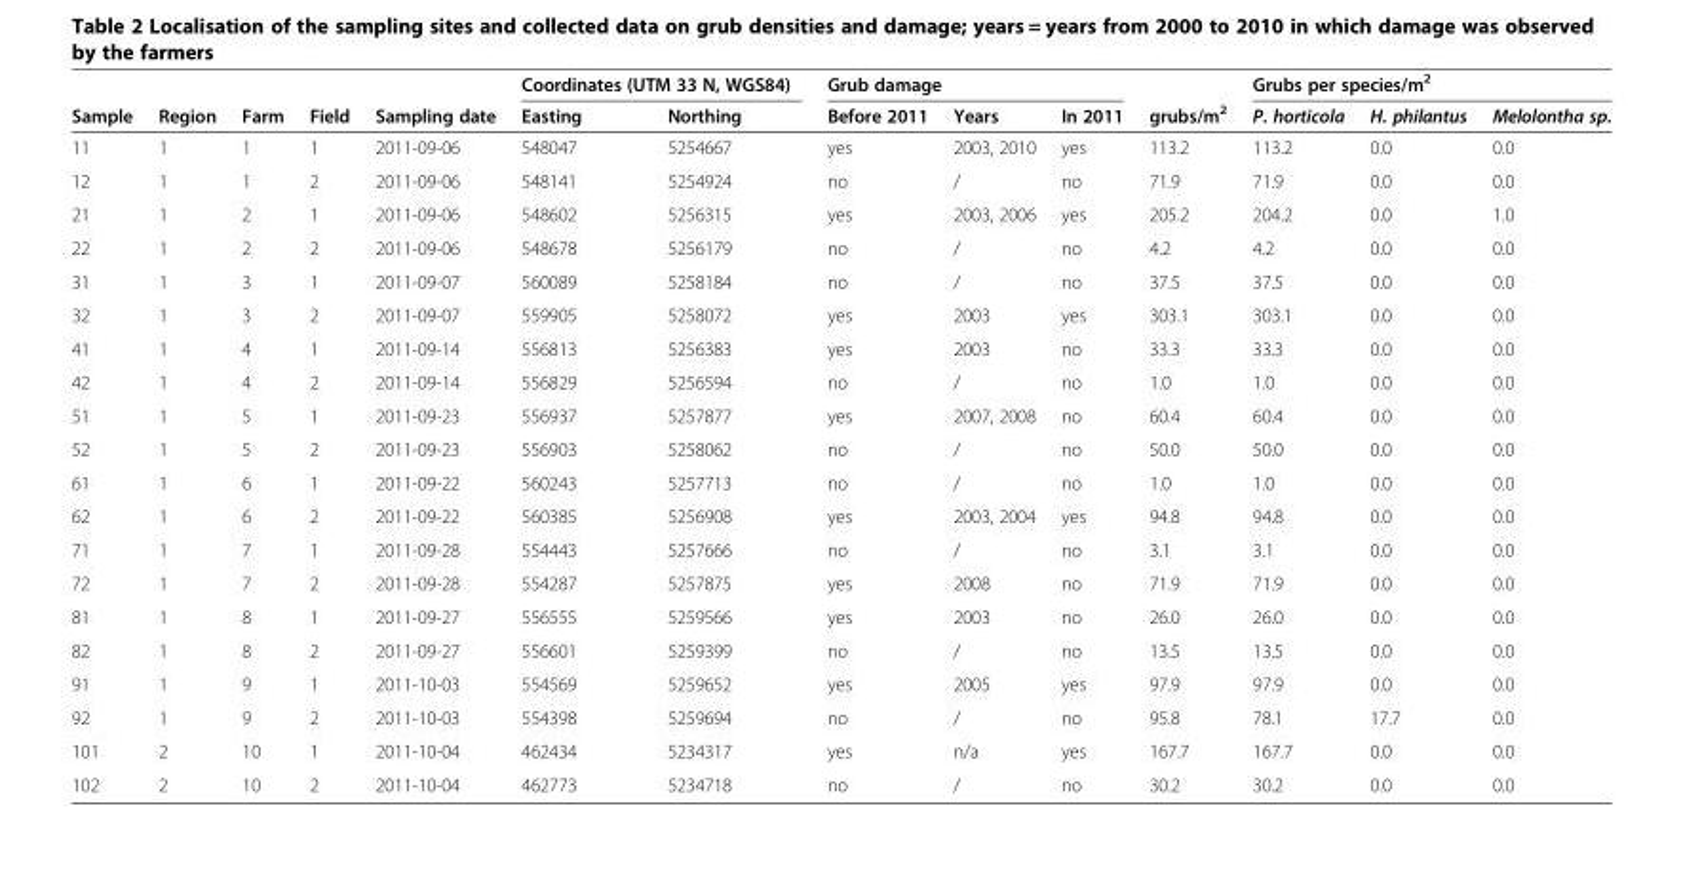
<table><thead><tr><td rowspan="2">Sample</td><td rowspan="2">Region</td><td rowspan="2">Farm</td><td rowspan="2">Field</td><td rowspan="2">Sampling date</td><td colspan="2">Coordinates (UTM 33 N, WGS84)</td><td colspan="3">Grub damage</td><td rowspan="2">grubs/m<sup>2</sup></td><td colspan="3">Grubs per species/m<sup>2</sup></td></tr><tr><td>Easting</td><td>Northing</td><td>Before 2011</td><td>Years</td><td>In 2011</td><td>P. horticola</td><td>H. philantus</td><td>Melolontha sp.</td></tr></thead><tbody><tr><td>11</td><td>1</td><td>1</td><td>1</td><td>2011-09-06</td><td>548047</td><td>5254667</td><td>yes</td><td>2003, 2010</td><td>yes</td><td>113.2</td><td>113.2</td><td>0.0</td><td>0.0</td></tr><tr><td>12</td><td>1</td><td>1</td><td>2</td><td>2011-09-06</td><td>548141</td><td>5254924</td><td>no</td><td>/</td><td>no</td><td>71.9</td><td>71.9</td><td>0.0</td><td>0.0</td></tr><tr><td>21</td><td>1</td><td>2</td><td>1</td><td>2011-09-06</td><td>548602</td><td>5256315</td><td>yes</td><td>2003, 2006</td><td>yes</td><td>205.2</td><td>204.2</td><td>0.0</td><td>1.0</td></tr><tr><td>22</td><td>1</td><td>2</td><td>2</td><td>2011-09-06</td><td>548678</td><td>5256179</td><td>no</td><td>/</td><td>no</td><td>4.2</td><td>4.2</td><td>0.0</td><td>0.0</td></tr><tr><td>31</td><td>1</td><td>3</td><td>1</td><td>2011-09-07</td><td>560089</td><td>5258184</td><td>no</td><td>/</td><td>no</td><td>37.5</td><td>37.5</td><td>0.0</td><td>0.0</td></tr><tr><td>32</td><td>1</td><td>3</td><td>2</td><td>2011-09-07</td><td>559905</td><td>5258072</td><td>yes</td><td>2003</td><td>yes</td><td>303.1</td><td>303.1</td><td>0.0</td><td>0.0</td></tr><tr><td>41</td><td>1</td><td>4</td><td>1</td><td>2011-09-14</td><td>556813</td><td>5256383</td><td>yes</td><td>2003</td><td>no</td><td>33.3</td><td>33.3</td><td>0.0</td><td>0.0</td></tr><tr><td>42</td><td>1</td><td>4</td><td>2</td><td>2011-09-14</td><td>556829</td><td>5256594</td><td>no</td><td>/</td><td>no</td><td>1.0</td><td>1.0</td><td>0.0</td><td>0.0</td></tr><tr><td>51</td><td>1</td><td>5</td><td>1</td><td>2011-09-23</td><td>556937</td><td>5257877</td><td>yes</td><td>2007, 2008</td><td>no</td><td>60.4</td><td>60.4</td><td>0.0</td><td>0.0</td></tr><tr><td>52</td><td>1</td><td>5</td><td>2</td><td>2011-09-23</td><td>556903</td><td>5258062</td><td>no</td><td>/</td><td>no</td><td>50.0</td><td>50.0</td><td>0.0</td><td>0.0</td></tr><tr><td>61</td><td>1</td><td>6</td><td>1</td><td>2011-09-22</td><td>560243</td><td>5257713</td><td>no</td><td>/</td><td>no</td><td>1.0</td><td>1.0</td><td>0.0</td><td>0.0</td></tr><tr><td>62</td><td>1</td><td>6</td><td>2</td><td>2011-09-22</td><td>560385</td><td>5256908</td><td>yes</td><td>2003, 2004</td><td>yes</td><td>94.8</td><td>94.8</td><td>0.0</td><td>0.0</td></tr><tr><td>71</td><td>1</td><td>7</td><td>1</td><td>2011-09-28</td><td>554443</td><td>5257666</td><td>no</td><td>/</td><td>no</td><td>3.1</td><td>3.1</td><td>0.0</td><td>0.0</td></tr><tr><td>72</td><td>1</td><td>7</td><td>2</td><td>2011-09-28</td><td>554287</td><td>5257875</td><td>yes</td><td>2008</td><td>no</td><td>71.9</td><td>71.9</td><td>0.0</td><td>0.0</td></tr><tr><td>81</td><td>1</td><td>8</td><td>1</td><td>2011-09-27</td><td>556555</td><td>5259566</td><td>yes</td><td>2003</td><td>no</td><td>26.0</td><td>26.0</td><td>0.0</td><td>0.0</td></tr><tr><td>82</td><td>1</td><td>8</td><td>2</td><td>2011-09-27</td><td>556601</td><td>5259399</td><td>no</td><td>/</td><td>no</td><td>13.5</td><td>13.5</td><td>0.0</td><td>0.0</td></tr><tr><td>91</td><td>1</td><td>9</td><td>1</td><td>2011-10-03</td><td>554569</td><td>5259652</td><td>yes</td><td>2005</td><td>yes</td><td>97.9</td><td>97.9</td><td>0.0</td><td>0.0</td></tr><tr><td>92</td><td>1</td><td>9</td><td>2</td><td>2011-10-03</td><td>554398</td><td>5259694</td><td>no</td><td>/</td><td>no</td><td>95.8</td><td>78.1</td><td>17.7</td><td>0.0</td></tr><tr><td>101</td><td>2</td><td>10</td><td>1</td><td>2011-10-04</td><td>462434</td><td>5234317</td><td>yes</td><td>n/a</td><td>yes</td><td>167.7</td><td>167.7</td><td>0.0</td><td>0.0</td></tr><tr><td>102</td><td>2</td><td>10</td><td>2</td><td>2011-10-04</td><td>462773</td><td>5234718</td><td>no</td><td>/</td><td>no</td><td>30.2</td><td>30.2</td><td>0.0</td><td>0.0</td></tr></tbody></table>